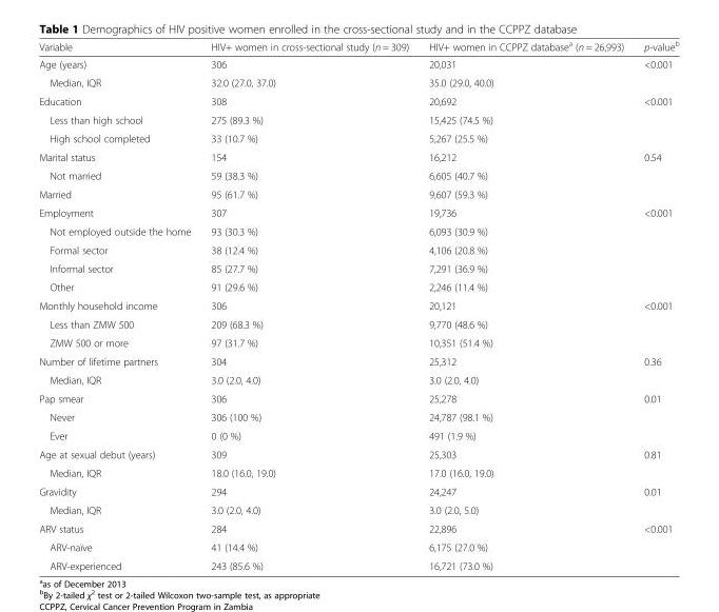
<table><thead><tr><td>Variable</td><td>HIV+ women in cross-sectional study (n = 309)</td><td>HIV+ women in CCPPZ database<sup>a</sup> (n = 26,993)</td><td>p-value<sup>b</sup></td></tr></thead><tbody><tr><td>Age (years)</td><td>306</td><td>20,031</td><td>&lt;0.001</td></tr><tr><td>Median, IQR</td><td>32.0 (27.0, 37.0)</td><td>35.0 (29.0, 40.0)</td><td></td></tr><tr><td>Education</td><td>308</td><td>20,692</td><td>&lt;0.001</td></tr><tr><td>Less than high school</td><td>275 (89.3 %)</td><td>15,425 (74.5 %)</td><td></td></tr><tr><td>High school completed</td><td>33 (10.7 %)</td><td>5,267 (25.5 %)</td><td></td></tr><tr><td>Marital status</td><td>154</td><td>16,212</td><td>0.54</td></tr><tr><td>Not married</td><td>59 (38.3 %)</td><td>6,605 (40.7 %)</td><td></td></tr><tr><td>Married</td><td>95 (61.7 %)</td><td>9,607 (59.3 %)</td><td></td></tr><tr><td>Employment</td><td>307</td><td>19,736</td><td>&lt;0.001</td></tr><tr><td>Not employed outside the home</td><td>93 (30.3 %)</td><td>6,093 (30.9 %)</td><td></td></tr><tr><td>Formal sector</td><td>38 (12.4 %)</td><td>4,106 (20.8 %)</td><td></td></tr><tr><td>Informal sector</td><td>85 (27.7 %)</td><td>7,291 (36.9 %)</td><td></td></tr><tr><td>Other</td><td>91 (29.6 %)</td><td>2,246 (11.4 %)</td><td></td></tr><tr><td>Monthly household income</td><td>306</td><td>20,121</td><td>&lt;0.001</td></tr><tr><td>Less than ZMW 500</td><td>209 (68.3 %)</td><td>9,770 (48.6 %)</td><td></td></tr><tr><td>ZMW 500 or more</td><td>97 (31.7 %)</td><td>10,351 (51.4 %)</td><td></td></tr><tr><td>Number of lifetime partners</td><td>304</td><td>25,312</td><td>0.36</td></tr><tr><td>Median, IQR</td><td>3.0 (2.0, 4.0)</td><td>3.0 (2.0, 4.0)</td><td></td></tr><tr><td>Pap smear</td><td>306</td><td>25,278</td><td>0.01</td></tr><tr><td>Never</td><td>306 (100 %)</td><td>24,787 (98.1 %)</td><td></td></tr><tr><td>Ever</td><td>0 (0 %)</td><td>491 (1.9 %)</td><td></td></tr><tr><td>Age at sexual debut (years)</td><td>309</td><td>25,303</td><td>0.81</td></tr><tr><td>Median, IQR</td><td>18.0 (16.0, 19.0)</td><td>17.0 (16.0, 19.0)</td><td></td></tr><tr><td>Gravidity</td><td>294</td><td>24,247</td><td>0.01</td></tr><tr><td>Median, IQR</td><td>3.0 (2.0, 4.0)</td><td>3.0 (2.0, 5.0)</td><td></td></tr><tr><td>ARV status</td><td>284</td><td>22,896</td><td>&lt;0.001</td></tr><tr><td>ARV-naïve</td><td>41 (14.4 %)</td><td>6,175 (27.0 %)</td><td></td></tr><tr><td>ARV-experienced</td><td>243 (85.6 %)</td><td>16,721 (73.0 %)</td><td></td></tr></tbody></table>